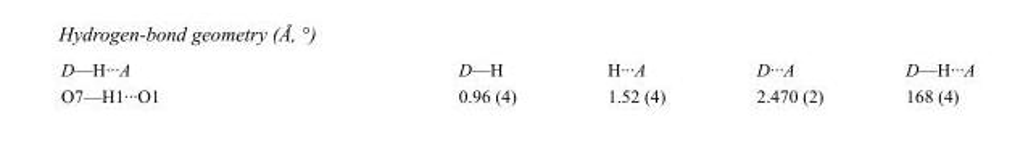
<table><tbody><tr><td>D—H···A</td><td>D—H</td><td>H···A</td><td>D···A</td><td>D—H···A</td></tr><tr><td>O7—H1···O1</td><td>0.96 (4)</td><td>1.52 (4)</td><td>2.470 (2)</td><td>168 (4)</td></tr></tbody></table>